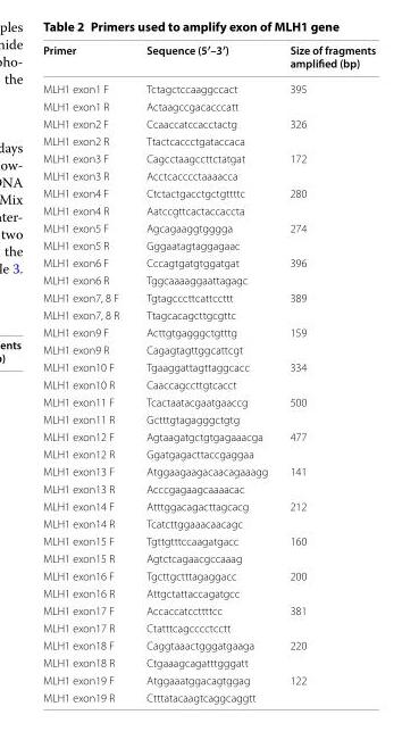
<table><thead><tr><td>Primer</td><td>Sequence (5′–3′)</td><td>Size of fragments amplified (bp)</td></tr></thead><tbody><tr><td>MLH1 exon1 F</td><td>Tctagctccaaggccact</td><td>395</td></tr><tr><td>MLH1 exon1 R</td><td>Actaagccgacacccatt</td><td></td></tr><tr><td>MLH1 exon2 F</td><td>Ccaaccatccacctactg</td><td>326</td></tr><tr><td>MLH1 exon2 R</td><td>Ttactcaccctgataccaca</td><td></td></tr><tr><td>MLH1 exon3 F</td><td>Cagcctaagccttctatgat</td><td>172</td></tr><tr><td>MLH1 exon3 R</td><td>Acctcacccctaaaacca</td><td></td></tr><tr><td>MLH1 exon4 F</td><td>Ctctactgacctgctgttttc</td><td>280</td></tr><tr><td>MLH1 exon4 R</td><td>Aatccgttcactaccaccta</td><td></td></tr><tr><td>MLH1 exon5 F</td><td>Agcagaaggtgggga</td><td>274</td></tr><tr><td>MLH1 exon5 R</td><td>Gggaatagtaggagaac</td><td></td></tr><tr><td>MLH1 exon6 F</td><td>Cccagtgatgtggatgat</td><td>396</td></tr><tr><td>MLH1 exon6 R</td><td>Tggcaaaaggaattagagc</td><td></td></tr><tr><td>MLH1 exon7, 8 F</td><td>Tgtagcccttcattccttt</td><td>389</td></tr><tr><td>MLH1 exon7, 8 R</td><td>Ttagcacagcttgcgttc</td><td></td></tr><tr><td>MLH1 exon9 F</td><td>Acttgtgagggctgtttg</td><td>159</td></tr><tr><td>MLH1 exon9 R</td><td>Cagagtagttggcattcgt</td><td></td></tr><tr><td>MLH1 exon10 F</td><td>Tgaaggattagttaggcacc</td><td>334</td></tr><tr><td>MLH1 exon10 R</td><td>Caaccagccttgtcacct</td><td></td></tr><tr><td>MLH1 exon11 F</td><td>Tcactaatacgaatgaaccg</td><td>500</td></tr><tr><td>MLH1 exon11 R</td><td>Gctttgtagagggctgtg</td><td></td></tr><tr><td>MLH1 exon12 F</td><td>Agtaagatgctgtgagaaacga</td><td>477</td></tr><tr><td>MLH1 exon12 R</td><td>Ggatgagacttaccgaggaa</td><td></td></tr><tr><td>MLH1 exon13 F</td><td>Atggaagaagacaacagaaagg</td><td>141</td></tr><tr><td>MLH1 exon13 R</td><td>Acccgagaagcaaaacac</td><td></td></tr><tr><td>MLH1 exon14 F</td><td>Atttggacagacttagcacg</td><td>212</td></tr><tr><td>MLH1 exon14 R</td><td>Tcatcttggaaacaacagc</td><td></td></tr><tr><td>MLH1 exon15 F</td><td>Tgttgtttccaagatgacc</td><td>160</td></tr><tr><td>MLH1 exon15 R</td><td>Agtctcagaacgccaaag</td><td></td></tr><tr><td>MLH1 exon16 F</td><td>Tgcttgctttagaggacc</td><td>200</td></tr><tr><td>MLH1 exon16 R</td><td>Attgctattaccagatgcc</td><td></td></tr><tr><td>MLH1 exon17 F</td><td>Accaccatccttttcc</td><td>381</td></tr><tr><td>MLH1 exon17 R</td><td>Ctatttcagcccctcctt</td><td></td></tr><tr><td>MLH1 exon18 F</td><td>Caggtaaactgggatgaaga</td><td>220</td></tr><tr><td>MLH1 exon18 R</td><td>Ctgaaagcagatttgggatt</td><td></td></tr><tr><td>MLH1 exon19 F</td><td>Atggaaatggacagtggag</td><td>122</td></tr><tr><td>MLH1 exon19 R</td><td>Ctttatacaagtcaggcaggtt</td><td></td></tr></tbody></table>